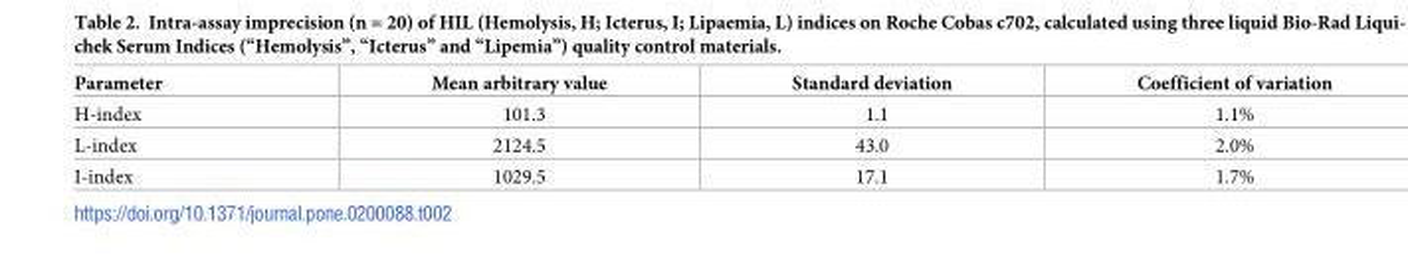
<table><thead><tr><td>Parameter</td><td>Mean arbitrary value</td><td>Standard deviation</td><td>Coefficient of variation</td></tr></thead><tbody><tr><td>H-index</td><td>101.3</td><td>1.1</td><td>1.1%</td></tr><tr><td>L-index</td><td>2124.5</td><td>43.0</td><td>2.0%</td></tr><tr><td>I-index</td><td>1029.5</td><td>17.1</td><td>1.7%</td></tr></tbody></table>